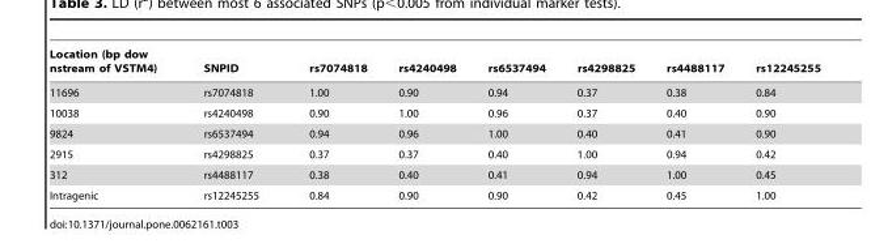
<table><thead><tr><td>Location (bp dow nstream of VSTM4)</td><td>SNPID</td><td>rs7074818</td><td>rs4240498</td><td>rs6537494</td><td>rs4298825</td><td>rs4488117</td><td>rs12245255</td></tr></thead><tbody><tr><td>11696</td><td>rs7074818</td><td>1.00</td><td>0.90</td><td>0.94</td><td>0.37</td><td>0.38</td><td>0.84</td></tr><tr><td>10038</td><td>rs4240498</td><td>0.90</td><td>1.00</td><td>0.96</td><td>0.37</td><td>0.40</td><td>0.90</td></tr><tr><td>9824</td><td>rs6537494</td><td>0.94</td><td>0.96</td><td>1.00</td><td>0.40</td><td>0.41</td><td>0.90</td></tr><tr><td>2915</td><td>rs4298825</td><td>0.37</td><td>0.37</td><td>0.40</td><td>1.00</td><td>0.94</td><td>0.42</td></tr><tr><td>312</td><td>rs4488117</td><td>0.38</td><td>0.40</td><td>0.41</td><td>0.94</td><td>1.00</td><td>0.45</td></tr><tr><td>Intragenic</td><td>rs12245255</td><td>0.84</td><td>0.90</td><td>0.90</td><td>0.42</td><td>0.45</td><td>1.00</td></tr></tbody></table>